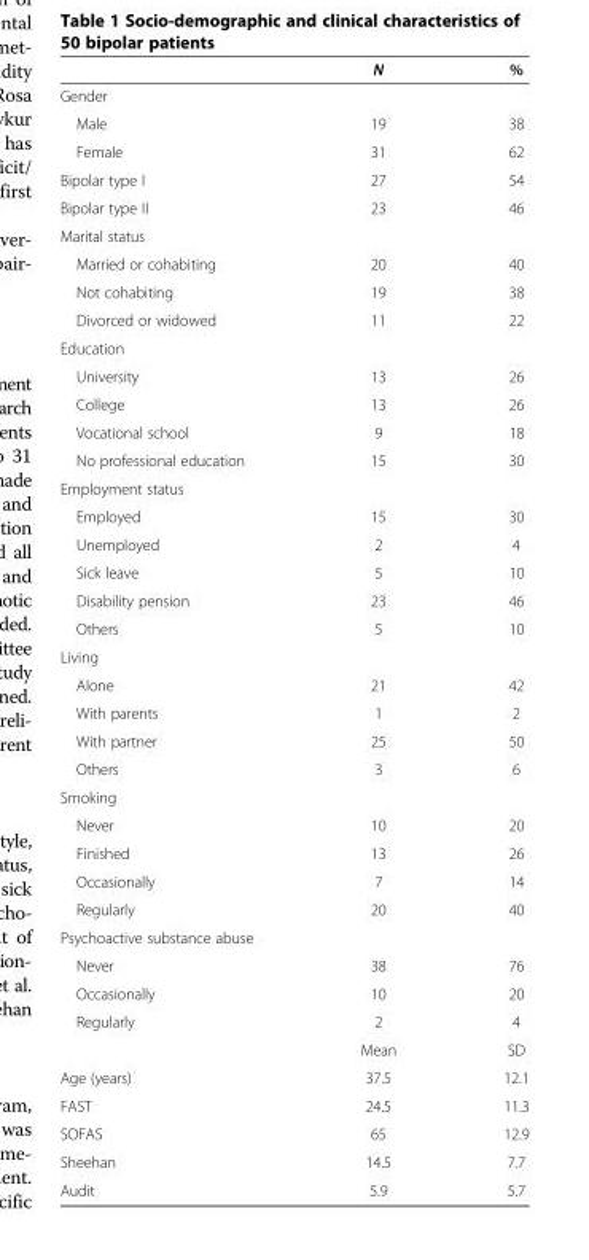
<table><thead><tr><td></td><td>N</td><td>%</td></tr></thead><tbody><tr><td colspan="3">Gender</td></tr><tr><td>Male</td><td>19</td><td>38</td></tr><tr><td>Female</td><td>31</td><td>62</td></tr><tr><td>Bipolar type I</td><td>27</td><td>54</td></tr><tr><td>Bipolar type II</td><td>23</td><td>46</td></tr><tr><td colspan="3">Marital status</td></tr><tr><td>Married or cohabiting</td><td>20</td><td>40</td></tr><tr><td>Not cohabiting</td><td>19</td><td>38</td></tr><tr><td>Divorced or widowed</td><td>11</td><td>22</td></tr><tr><td colspan="3">Education</td></tr><tr><td>University</td><td>13</td><td>26</td></tr><tr><td>College</td><td>13</td><td>26</td></tr><tr><td>Vocational school</td><td>9</td><td>18</td></tr><tr><td>No professional education</td><td>15</td><td>30</td></tr><tr><td colspan="3">Employment status</td></tr><tr><td>Employed</td><td>15</td><td>30</td></tr><tr><td>Unemployed</td><td>2</td><td>4</td></tr><tr><td>Sick leave</td><td>5</td><td>10</td></tr><tr><td>Disability pension</td><td>23</td><td>46</td></tr><tr><td>Others</td><td>5</td><td>10</td></tr><tr><td colspan="3">Living</td></tr><tr><td>Alone</td><td>21</td><td>42</td></tr><tr><td>With parents</td><td>1</td><td>2</td></tr><tr><td>With partner</td><td>25</td><td>50</td></tr><tr><td>Others</td><td>3</td><td>6</td></tr><tr><td colspan="3">Smoking</td></tr><tr><td>Never</td><td>10</td><td>20</td></tr><tr><td>Finished</td><td>13</td><td>26</td></tr><tr><td>Occasionally</td><td>7</td><td>14</td></tr><tr><td>Regularly</td><td>20</td><td>40</td></tr><tr><td colspan="3">Psychoactive substance abuse</td></tr><tr><td>Never</td><td>38</td><td>76</td></tr><tr><td>Occasionally</td><td>10</td><td>20</td></tr><tr><td rowspan="2">Regularly</td><td>2</td><td>4</td></tr><tr><td>Mean</td><td>SD</td></tr><tr><td>Age (years)</td><td>37.5</td><td>12.1</td></tr><tr><td>FAST</td><td>24.5</td><td>11.3</td></tr><tr><td>SOFAS</td><td>65</td><td>12.9</td></tr><tr><td>Sheehan</td><td>14.5</td><td>7.7</td></tr><tr><td>Audit</td><td>5.9</td><td>5.7</td></tr></tbody></table>